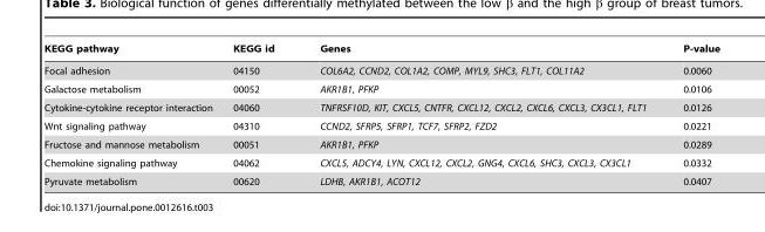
<table><thead><tr><td>KEGG pathway</td><td>KEGG id</td><td>Genes</td><td>P-value</td></tr></thead><tbody><tr><td>Focal adhesion</td><td>04150</td><td>COL6A2, CCND2, COL1A2, COMP, MYL9, SHC3, FLT1, COL11A2</td><td>0.0060</td></tr><tr><td>Galactose metabolism</td><td>00052</td><td>AKR1B1, PFKP</td><td>0.0106</td></tr><tr><td>Cytokine-cytokine receptor interaction</td><td>04060</td><td>TNFRSF10D, KIT, CXCL5, CNTFR, CXCL12, CXCL2, CXCL6, CXCL3, CX3CL1, FLT1</td><td>0.0126</td></tr><tr><td>Wnt signaling pathway</td><td>04310</td><td>CCND2, SFRP5, SFRP1, TCF7, SFRP2, FZD2</td><td>0.0221</td></tr><tr><td>Fructose and mannose metabolism</td><td>00051</td><td>AKR1B1, PFKP</td><td>0.0289</td></tr><tr><td>Chemokine signaling pathway</td><td>04062</td><td>CXCL5, ADCY4, LYN, CXCL12, CXCL2, GNG4, CXCL6, SHC3, CXCL3, CX3CL1</td><td>0.0332</td></tr><tr><td>Pyruvate metabolism</td><td>00620</td><td>LDHB, AKR1B1, ACOT12</td><td>0.0407</td></tr></tbody></table>